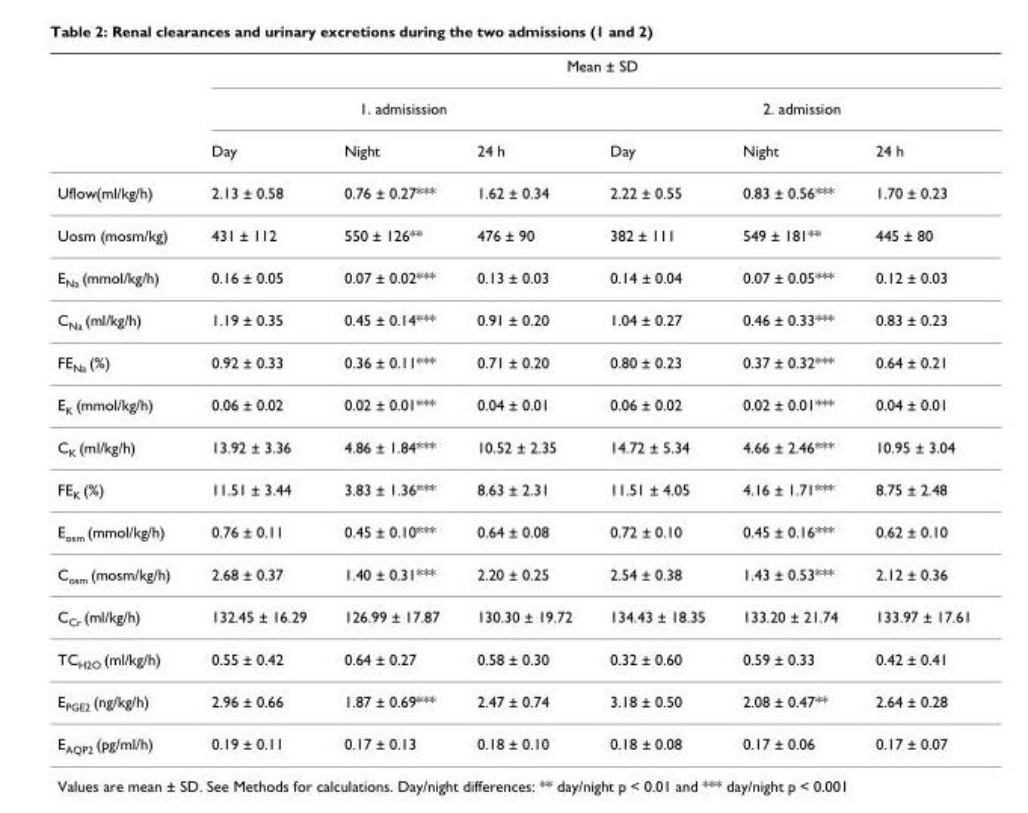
<table><thead><tr><td rowspan="3"></td><td colspan="6">Mean ± SD</td></tr><tr><td colspan="3">1. admisission</td><td colspan="3">2. admission</td></tr><tr><td>Day</td><td>Night</td><td>24 h</td><td>Day</td><td>Night</td><td>24 h</td></tr></thead><tbody><tr><td>Uflow(ml/kg/h)</td><td>2.13 ± 0.58</td><td>0.76 ± 0.27***</td><td>1.62 ± 0.34</td><td>2.22 ± 0.55</td><td>0.83 ± 0.56***</td><td>1.70 ± 0.23</td></tr><tr><td>Uosm (mosm/kg)</td><td>431 ± 112</td><td>550 ± 126**</td><td>476 ± 90</td><td>382 ± 111</td><td>549 ± 181**</td><td>445 ± 80</td></tr><tr><td>E<sub>Na</sub> (mmol/kg/h)</td><td>0.16 ± 0.05</td><td>0.07 ± 0.02***</td><td>0.13 ± 0.03</td><td>0.14 ± 0.04</td><td>0.07 ± 0.05***</td><td>0.12 ± 0.03</td></tr><tr><td>C<sub>Na</sub> (ml/kg/h)</td><td>1.19 ± 0.35</td><td>0.45 ± 0.14***</td><td>0.91 ± 0.20</td><td>1.04 ± 0.27</td><td>0.46 ± 0.33***</td><td>0.83 ± 0.23</td></tr><tr><td>FE<sub>Na</sub> (%)</td><td>0.92 ± 0.33</td><td>0.36 ± 0.11***</td><td>0.71 ± 0.20</td><td>0.80 ± 0.23</td><td>0.37 ± 0.32***</td><td>0.64 ± 0.21</td></tr><tr><td>E<sub>K</sub> (mmol/kg/h)</td><td>0.06 ± 0.02</td><td>0.02 ± 0.01***</td><td>0.04 ± 0.01</td><td>0.06 ± 0.02</td><td>0.02 ± 0.01***</td><td>0.04 ± 0.01</td></tr><tr><td>C<sub>K</sub> (ml/kg/h)</td><td>13.92 ± 3.36</td><td>4.86 ± 1.84***</td><td>10.52 ± 2.35</td><td>14.72 ± 5.34</td><td>4.66 ± 2.46***</td><td>10.95 ± 3.04</td></tr><tr><td>FE<sub>K</sub> (%)</td><td>11.51 ± 3.44</td><td>3.83 ± 1.36***</td><td>8.63 ± 2.31</td><td>11.51 ± 4.05</td><td>4.16 ± 1.71***</td><td>8.75 ± 2.48</td></tr><tr><td>E<sub>osm</sub> (mmol/kg/h)</td><td>0.76 ± 0.11</td><td>0.45 ± 0.10***</td><td>0.64 ± 0.08</td><td>0.72 ± 0.10</td><td>0.45 ± 0.16***</td><td>0.62 ± 0.10</td></tr><tr><td>C<sub>osm</sub> (mosm/kg/h)</td><td>2.68 ± 0.37</td><td>1.40 ± 0.31***</td><td>2.20 ± 0.25</td><td>2.54 ± 0.38</td><td>1.43 ± 0.53***</td><td>2.12 ± 0.36</td></tr><tr><td>C<sub>Cr</sub> (ml/kg/h)</td><td>132.45 ± 16.29</td><td>126.99 ± 17.87</td><td>130.30 ± 19.72</td><td>134.43 ± 18.35</td><td>133.20 ± 21.74</td><td>133.97 ± 17.61</td></tr><tr><td>TC<sub>H2O</sub> (ml/kg/h)</td><td>0.55 ± 0.42</td><td>0.64 ± 0.27</td><td>0.58 ± 0.30</td><td>0.32 ± 0.60</td><td>0.59 ± 0.33</td><td>0.42 ± 0.41</td></tr><tr><td>E<sub>PGE2</sub> (ng/kg/h)</td><td>2.96 ± 0.66</td><td>1.87 ± 0.69***</td><td>2.47 ± 0.74</td><td>3.18 ± 0.50</td><td>2.08 ± 0.47**</td><td>2.64 ± 0.28</td></tr><tr><td>E<sub>AQP2</sub> (pg/ml/h)</td><td>0.19 ± 0.11</td><td>0.17 ± 0.13</td><td>0.18 ± 0.10</td><td>0.18 ± 0.08</td><td>0.17 ± 0.06</td><td>0.17 ± 0.07</td></tr></tbody></table>